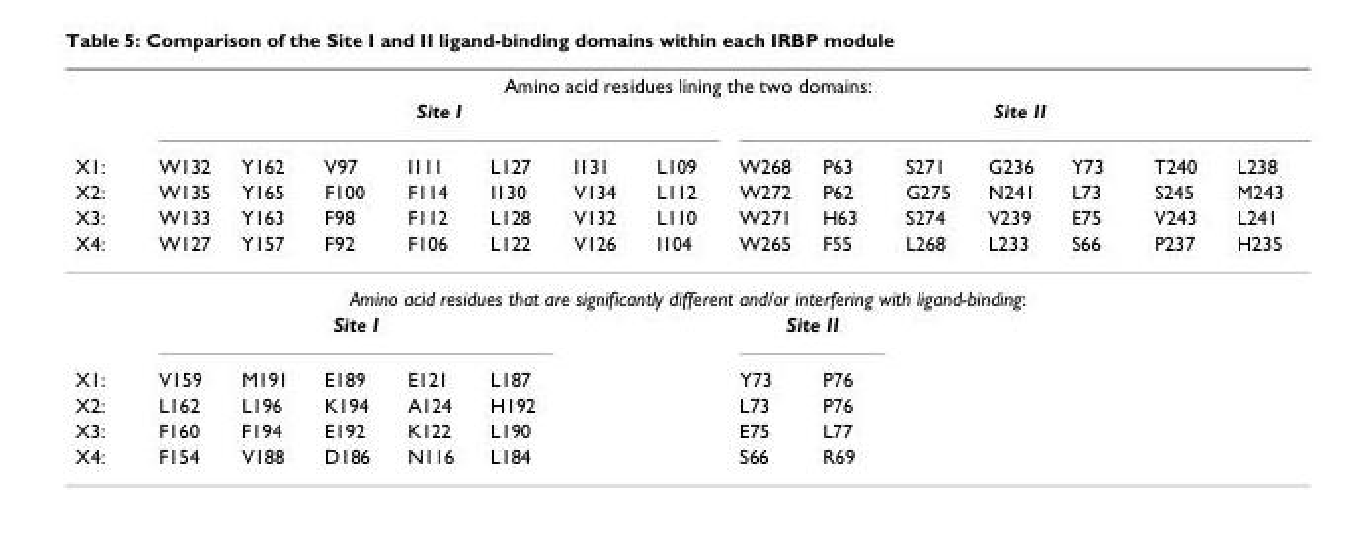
<table><thead><tr><td colspan="15">Amino acid residues lining the two domains:</td></tr><tr><td rowspan="5">X1: X2: X3: X4:</td><td colspan="7">Site I</td><td colspan="7">Site II</td></tr><tr><td rowspan="4">W132 W135 W133 W127</td><td rowspan="4">Y162 Y165 Y163 Y157</td><td rowspan="4">V97 F100 F98 F92</td><td rowspan="4">I111 F114 F112 F106</td><td rowspan="4">L127 I130 L128 L122</td><td rowspan="4">I131 V134 V132 V126</td><td rowspan="4">L109 L112 L110 I104</td><td rowspan="4">W268 W272 W271 W265</td><td rowspan="4">P63 P62 H63 F55</td><td rowspan="4">S271 G275 S274 L268</td><td rowspan="4">G236 N241 V239 L233</td><td rowspan="4">Y73 L73 E75 S66</td><td rowspan="4">T240 S245 V243 P237</td><td rowspan="4">L238 M243 L241 H235</td></tr><tr></tr><tr></tr><tr></tr></thead><tbody><tr><td colspan="15">Amino acid residues that are significantly different and/or interfering with ligand-binding:</td></tr><tr><td></td><td colspan="5">Site I</td><td colspan="2"></td><td colspan="2">Site II</td><td></td><td></td><td></td><td></td><td></td></tr><tr><td>X1:</td><td>V159</td><td>M191</td><td>E189</td><td>E121</td><td>L187</td><td colspan="2"></td><td>Y73</td><td>P76</td><td></td><td></td><td></td><td></td><td></td></tr><tr><td>X2:</td><td>L162</td><td>L196</td><td>K194</td><td>A124</td><td>H192</td><td colspan="2"></td><td>L73</td><td>P76</td><td></td><td></td><td></td><td></td><td></td></tr><tr><td>X3:</td><td>F160</td><td>F194</td><td>E192</td><td>K122</td><td>L190</td><td colspan="2"></td><td>E75</td><td>L77</td><td></td><td></td><td></td><td></td><td></td></tr><tr><td>X4:</td><td>F154</td><td>V188</td><td>D186</td><td>N116</td><td>L184</td><td colspan="2"></td><td>S66</td><td>R69</td><td></td><td></td><td></td><td></td><td></td></tr></tbody></table>